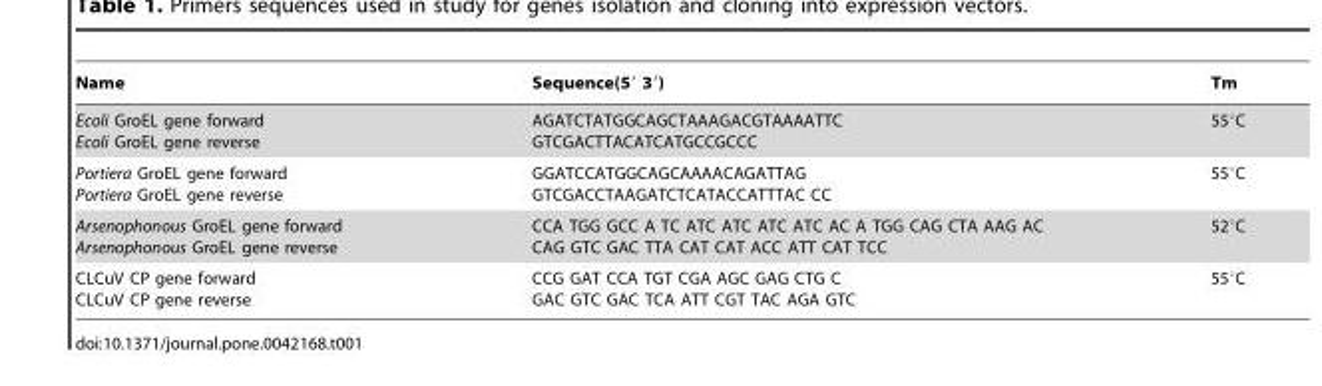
<table><thead><tr><td>Name</td><td>Sequence(5′ 3′)</td><td>Tm</td></tr></thead><tbody><tr><td>Ecoli GroEL gene forward Ecoli GroEL gene reverse</td><td>AGATCTATGGCAGCTAAAGACGTAAAATTC GTCGACTTACATCATGCCGCCC</td><td>55°C</td></tr><tr><td>Portiera GroEL gene forward Portiera GroEL gene reverse</td><td>GGATCCATGGCAGCAAAACAGATTAG GTCGACCTAAGATCTCATACCATTTAC CC</td><td>55°C</td></tr><tr><td>Arsenophonous GroEL gene forward Arsenophonous GroEL gene reverse</td><td>CCA TGG GCC A TC ATC ATC ATC ATC AC A TGG CAG CTA AAG AC CAG GTC GAC TTA CAT CAT ACC ATT CAT TCC</td><td>52°C</td></tr><tr><td>CLCuV CP gene forward CLCuV CP gene reverse</td><td>CCG GAT CCA TGT CGA AGC GAG CTG C GAC GTC GAC TCA ATT CGT TAC AGA GTC</td><td>55°C</td></tr></tbody></table>